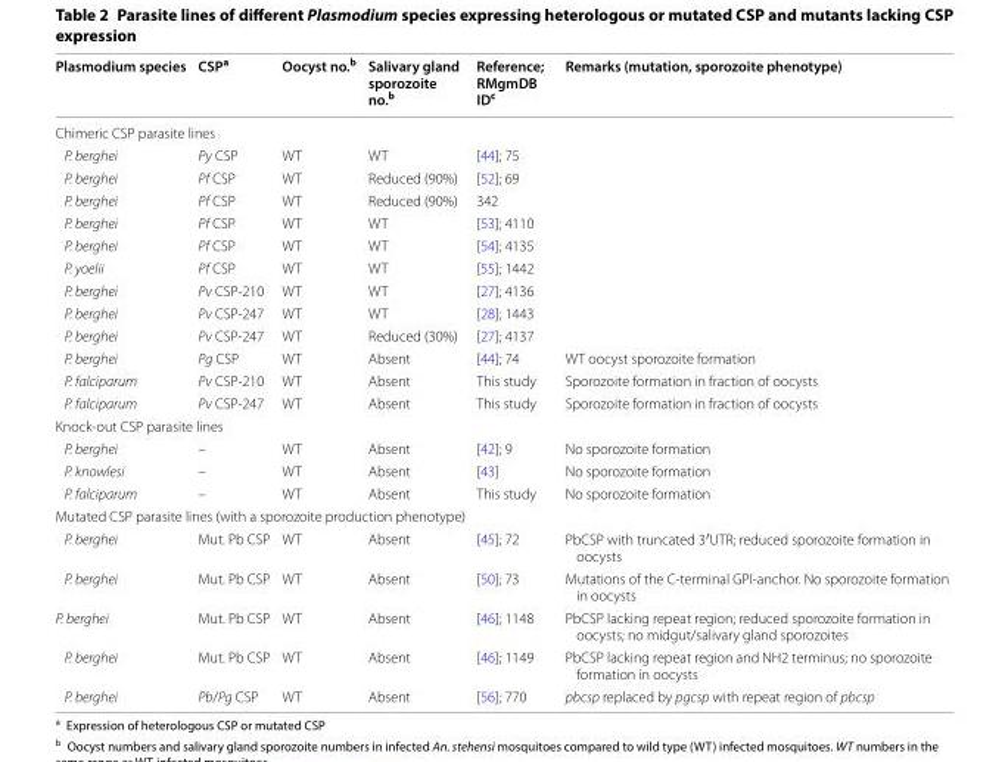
<table><thead><tr><td>Plasmodium species</td><td>CSP<sup>a</sup></td><td>Oocyst no.<sup>b</sup></td><td>Salivary gland sporozoite no.<sup>b</sup></td><td>Reference; RMgmDB ID<sup>c</sup></td><td>Remarks (mutation, sporozoite phenotype)</td></tr></thead><tbody><tr><td colspan="6">Chimeric CSP parasite lines</td></tr><tr><td>P. berghei</td><td>Py CSP</td><td>WT</td><td>WT</td><td>[44]; 75</td><td></td></tr><tr><td>P. berghei</td><td>Pf CSP</td><td>WT</td><td>Reduced (90%)</td><td>[52]; 69</td><td></td></tr><tr><td>P. berghei</td><td>Pf CSP</td><td>WT</td><td>Reduced (90%)</td><td>342</td><td></td></tr><tr><td>P. berghei</td><td>Pf CSP</td><td>WT</td><td>WT</td><td>[53]; 4110</td><td></td></tr><tr><td>P. berghei</td><td>Pf CSP</td><td>WT</td><td>WT</td><td>[54]; 4135</td><td></td></tr><tr><td>P. yoelii</td><td>Pf CSP</td><td>WT</td><td>WT</td><td>[55]; 1442</td><td></td></tr><tr><td>P. berghei</td><td>Pv CSP‑210</td><td>WT</td><td>WT</td><td>[27]; 4136</td><td></td></tr><tr><td>P. berghei</td><td>Pv CSP‑247</td><td>WT</td><td>WT</td><td>[28]; 1443</td><td></td></tr><tr><td>P. berghei</td><td>Pv CSP‑247</td><td>WT</td><td>Reduced (30%)</td><td>[27]; 4137</td><td></td></tr><tr><td>P. berghei</td><td>Pg CSP</td><td>WT</td><td>Absent</td><td>[44]; 74</td><td>WT oocyst sporozoite formation</td></tr><tr><td>P. falciparum</td><td>Pv CSP‑210</td><td>WT</td><td>Absent</td><td>This study</td><td>Sporozoite formation in fraction of oocysts</td></tr><tr><td>P. falciparum</td><td>Pv CSP‑247</td><td>WT</td><td>Absent</td><td>This study</td><td>Sporozoite formation in fraction of oocysts</td></tr><tr><td colspan="6">Knock‑out CSP parasite lines</td></tr><tr><td>P. berghei</td><td>–</td><td>WT</td><td>Absent</td><td>[42]; 9</td><td>No sporozoite formation</td></tr><tr><td>P. knowlesi</td><td>–</td><td>WT</td><td>Absent</td><td>[43]</td><td>No sporozoite formation</td></tr><tr><td>P. falciparum</td><td>–</td><td>WT</td><td>Absent</td><td>This study</td><td>No sporozoite formation</td></tr><tr><td colspan="6">Mutated CSP parasite lines (with a sporozoite production phenotype)</td></tr><tr><td>P. berghei</td><td>Mut. Pb CSP</td><td>WT</td><td>Absent</td><td>[45]; 72</td><td>PbCSP with truncated 3′UTR; reduced sporozoite formation in oocysts</td></tr><tr><td>P. berghei</td><td>Mut. Pb CSP</td><td>WT</td><td>Absent</td><td>[50]; 73</td><td>Mutations of the C‑terminal GPI‑anchor. No sporozoite formation in oocysts</td></tr><tr><td>P. berghei</td><td>Mut. Pb CSP</td><td>WT</td><td>Absent</td><td>[46]; 1148</td><td>PbCSP lacking repeat region; reduced sporozoite formation in oocysts; no midgut/salivary gland sporozoites</td></tr><tr><td>P. berghei</td><td>Mut. Pb CSP</td><td>WT</td><td>Absent</td><td>[46]; 1149</td><td>PbCSP lacking repeat region and NH2 terminus; no sporozoite formation in oocysts</td></tr><tr><td>P. berghei</td><td>Pb/Pg CSP</td><td>WT</td><td>Absent</td><td>[56]; 770</td><td>pbcsp replaced by pgcsp with repeat region of pbcsp</td></tr></tbody></table>